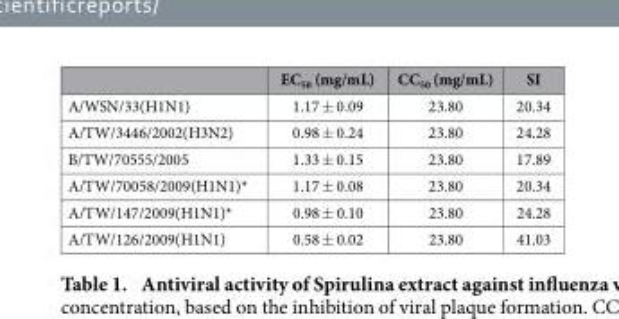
<table><thead><tr><td></td><td>EC<sub>50</sub> (mg/mL)</td><td>CC<sub>50</sub> (mg/mL)</td><td>SI</td></tr></thead><tbody><tr><td>A/WSN/33(H1N1)</td><td>1.17 ± 0.09</td><td>23.80</td><td>20.34</td></tr><tr><td>A/TW/3446/2002(H3N2)</td><td>0.98 ± 0.24</td><td>23.80</td><td>24.28</td></tr><tr><td>B/TW/70555/2005</td><td>1.33 ± 0.15</td><td>23.80</td><td>17.89</td></tr><tr><td>A/TW/70058/2009(H1N1)*</td><td>1.17 ± 0.08</td><td>23.80</td><td>20.34</td></tr><tr><td>A/TW/147/2009(H1N1)*</td><td>0.98 ± 0.10</td><td>23.80</td><td>24.28</td></tr><tr><td>A/TW/126/2009(H1N1)</td><td>0.58 ± 0.02</td><td>23.80</td><td>41.03</td></tr></tbody></table>